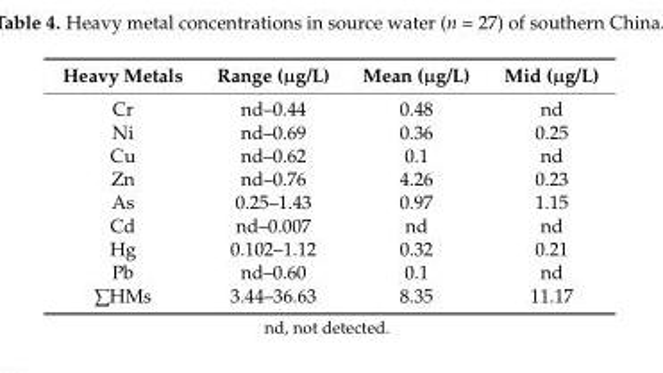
<table><thead><tr><td>Heavy Metals</td><td>Range (µg/L)</td><td>Mean (µg/L)</td><td>Mid (µg/L)</td></tr></thead><tbody><tr><td>Cr</td><td>nd–0.44</td><td>0.48</td><td>nd</td></tr><tr><td>Ni</td><td>nd–0.69</td><td>0.36</td><td>0.25</td></tr><tr><td>Cu</td><td>nd–0.62</td><td>0.1</td><td>nd</td></tr><tr><td>Zn</td><td>nd–0.76</td><td>4.26</td><td>0.23</td></tr><tr><td>As</td><td>0.25–1.43</td><td>0.97</td><td>1.15</td></tr><tr><td>Cd</td><td>nd–0.007</td><td>nd</td><td>nd</td></tr><tr><td>Hg</td><td>0.102–1.12</td><td>0.32</td><td>0.21</td></tr><tr><td>Pb</td><td>nd–0.60</td><td>0.1</td><td>nd</td></tr><tr><td>∑HMs</td><td>3.44–36.63</td><td>8.35</td><td>11.17</td></tr></tbody></table>